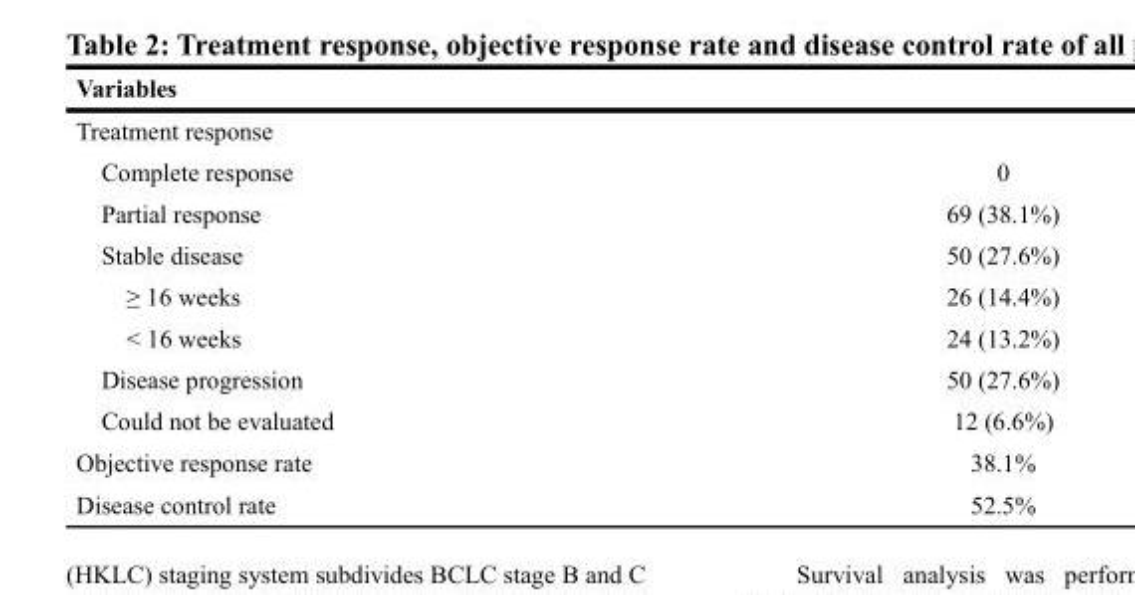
<table><thead><tr><td>Variables</td><td></td></tr></thead><tbody><tr><td colspan="2">Treatment response</td></tr><tr><td>Complete response</td><td>0</td></tr><tr><td>Partial response</td><td>69 (38.1%)</td></tr><tr><td>Stable disease</td><td>50 (27.6%)</td></tr><tr><td>≥ 16 weeks</td><td>26 (14.4%)</td></tr><tr><td>&lt; 16 weeks</td><td>24 (13.2%)</td></tr><tr><td>Disease progression</td><td>50 (27.6%)</td></tr><tr><td>Could not be evaluated</td><td>12 (6.6%)</td></tr><tr><td>Objective response rate</td><td>38.1%</td></tr><tr><td>Disease control rate</td><td>52.5%</td></tr></tbody></table>